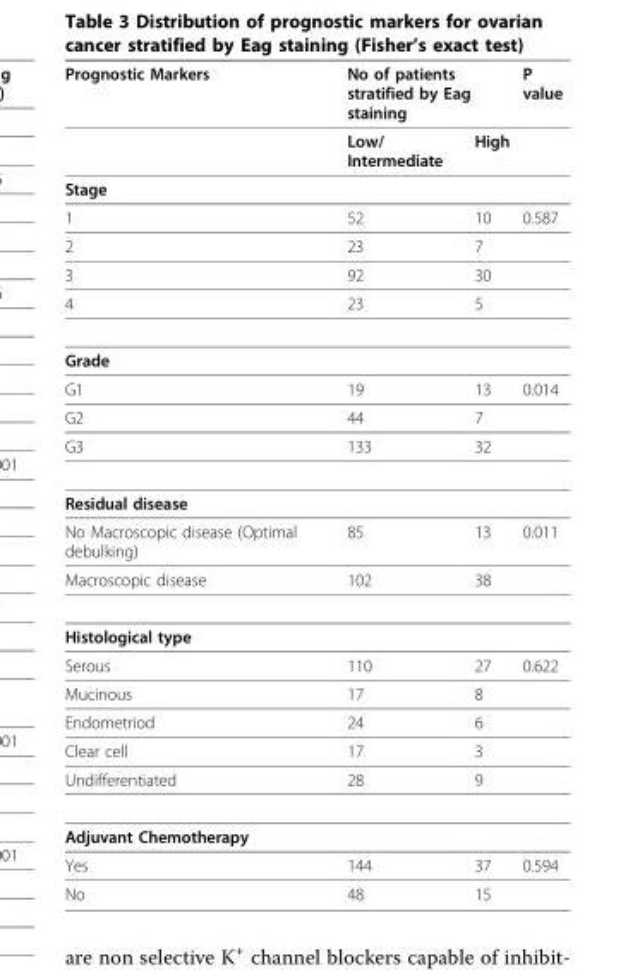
<table><thead><tr><td rowspan="2">Prognostic Markers</td><td colspan="2">No of patients stratified by Eag staining</td><td rowspan="2">P value</td></tr><tr><td>Low/ Intermediate</td><td>High</td></tr></thead><tbody><tr><td colspan="4">Stage</td></tr><tr><td>1</td><td>52</td><td>10</td><td>0.587</td></tr><tr><td>2</td><td>23</td><td>7</td><td></td></tr><tr><td>3</td><td>92</td><td>30</td><td></td></tr><tr><td>4</td><td>23</td><td>5</td><td></td></tr><tr><td colspan="4">Grade</td></tr><tr><td>G1</td><td>19</td><td>13</td><td>0.014</td></tr><tr><td>G2</td><td>44</td><td>7</td><td></td></tr><tr><td>G3</td><td>133</td><td>32</td><td></td></tr><tr><td colspan="4">Residual disease</td></tr><tr><td>No Macroscopic disease (Optimal debulking)</td><td>85</td><td>13</td><td>0.011</td></tr><tr><td>Macroscopic disease</td><td>102</td><td>38</td><td></td></tr><tr><td colspan="4">Histological type</td></tr><tr><td>Serous</td><td>110</td><td>27</td><td>0.622</td></tr><tr><td>Mucinous</td><td>17</td><td>8</td><td></td></tr><tr><td>Endometriod</td><td>24</td><td>6</td><td></td></tr><tr><td>Clear cell</td><td>17</td><td>3</td><td></td></tr><tr><td>Undifferentiated</td><td>28</td><td>9</td><td></td></tr><tr><td colspan="4">Adjuvant Chemotherapy</td></tr><tr><td>Yes</td><td>144</td><td>37</td><td>0.594</td></tr><tr><td>No</td><td>48</td><td>15</td><td></td></tr></tbody></table>